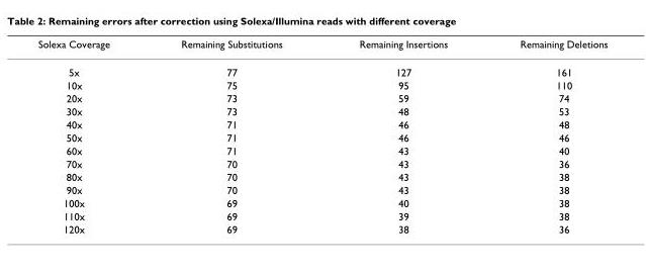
<table><thead><tr><td>Solexa Coverage</td><td>Remaining Substitutions</td><td>Remaining Insertions</td><td>Remaining Deletions</td></tr></thead><tbody><tr><td>5x</td><td>77</td><td>127</td><td>161</td></tr><tr><td>10x</td><td>75</td><td>95</td><td>110</td></tr><tr><td>20x</td><td>73</td><td>59</td><td>74</td></tr><tr><td>30x</td><td>73</td><td>48</td><td>53</td></tr><tr><td>40x</td><td>71</td><td>46</td><td>48</td></tr><tr><td>50x</td><td>71</td><td>46</td><td>46</td></tr><tr><td>60x</td><td>71</td><td>43</td><td>40</td></tr><tr><td>70x</td><td>70</td><td>43</td><td>36</td></tr><tr><td>80x</td><td>70</td><td>43</td><td>38</td></tr><tr><td>90x</td><td>70</td><td>43</td><td>38</td></tr><tr><td>100x</td><td>69</td><td>40</td><td>38</td></tr><tr><td>110x</td><td>69</td><td>39</td><td>38</td></tr><tr><td>120x</td><td>69</td><td>38</td><td>36</td></tr></tbody></table>